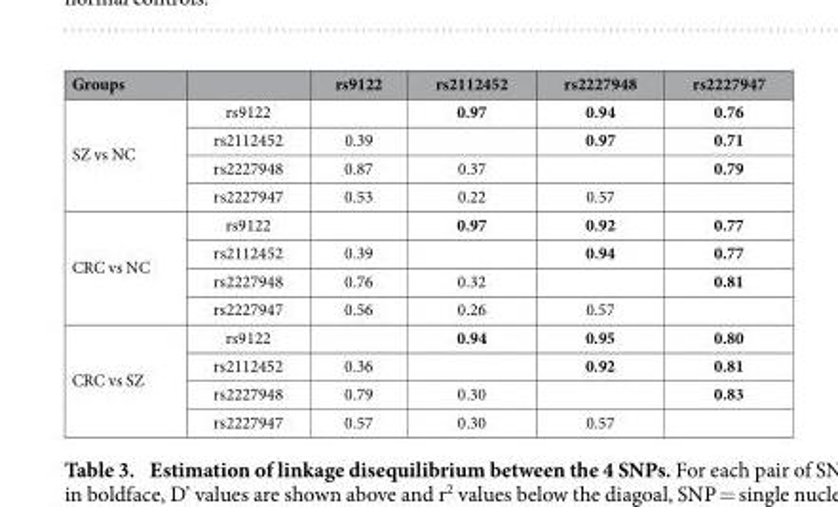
<table><thead><tr><td>Groups</td><td></td><td>rs9122</td><td>rs2112452</td><td>rs2227948</td><td>rs2227947</td></tr></thead><tbody><tr><td rowspan="4">SZ vs NC</td><td>rs9122</td><td></td><td>0.97</td><td>0.94</td><td>0.76</td></tr><tr><td>rs2112452</td><td>0.39</td><td></td><td>0.97</td><td>0.71</td></tr><tr><td>rs2227948</td><td>0.87</td><td>0.37</td><td></td><td>0.79</td></tr><tr><td>rs2227947</td><td>0.53</td><td>0.22</td><td>0.57</td><td></td></tr><tr><td rowspan="4">CRC vs NC</td><td>rs9122</td><td></td><td>0.97</td><td>0.92</td><td>0.77</td></tr><tr><td>rs2112452</td><td>0.39</td><td></td><td>0.94</td><td>0.77</td></tr><tr><td>rs2227948</td><td>0.76</td><td>0.32</td><td></td><td>0.81</td></tr><tr><td>rs2227947</td><td>0.56</td><td>0.26</td><td>0.57</td><td></td></tr><tr><td rowspan="4">CRC vs SZ</td><td>rs9122</td><td></td><td>0.94</td><td>0.95</td><td>0.80</td></tr><tr><td>rs2112452</td><td>0.36</td><td></td><td>0.92</td><td>0.81</td></tr><tr><td>rs2227948</td><td>0.79</td><td>0.30</td><td></td><td>0.83</td></tr><tr><td>rs2227947</td><td>0.57</td><td>0.30</td><td>0.57</td><td></td></tr></tbody></table>